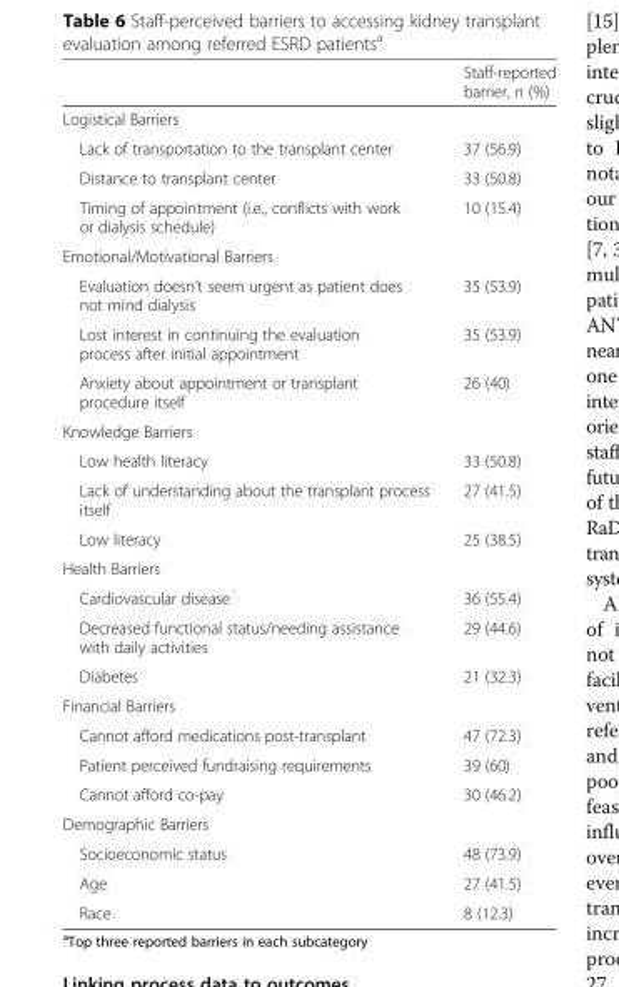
<table><thead><tr><td></td><td>Staff-reported barrier, n (%)</td></tr></thead><tbody><tr><td colspan="2">Logistical Barriers</td></tr><tr><td>Lack of transportation to the transplant center</td><td>37 (56.9)</td></tr><tr><td>Distance to transplant center</td><td>33 (50.8)</td></tr><tr><td>Timing of appointment (i.e., conflicts with work or dialysis schedule)</td><td>10 (15.4)</td></tr><tr><td colspan="2">Emotional/Motivational Barriers</td></tr><tr><td>Evaluation doesn’t seem urgent as patient does not mind dialysis</td><td>35 (53.9)</td></tr><tr><td>Lost interest in continuing the evaluation process after initial appointment</td><td>35 (53.9)</td></tr><tr><td>Anxiety about appointment or transplant procedure itself</td><td>26 (40)</td></tr><tr><td colspan="2">Knowledge Barriers</td></tr><tr><td>Low health literacy</td><td>33 (50.8)</td></tr><tr><td>Lack of understanding about the transplant process itself</td><td>27 (41.5)</td></tr><tr><td>Low literacy</td><td>25 (38.5)</td></tr><tr><td colspan="2">Health Barriers</td></tr><tr><td>Cardiovascular disease</td><td>36 (55.4)</td></tr><tr><td>Decreased functional status/needing assistance with daily activities</td><td>29 (44.6)</td></tr><tr><td>Diabetes</td><td>21 (32.3)</td></tr><tr><td colspan="2">Financial Barriers</td></tr><tr><td>Cannot afford medications post-transplant</td><td>47 (72.3)</td></tr><tr><td>Patient perceived fundraising requirements</td><td>39 (60)</td></tr><tr><td>Cannot afford co-pay</td><td>30 (46.2)</td></tr><tr><td colspan="2">Demographic Barriers</td></tr><tr><td>Socioeconomic status</td><td>48 (73.9)</td></tr><tr><td>Age</td><td>27 (41.5)</td></tr><tr><td>Race</td><td>8 (12.3)</td></tr></tbody></table>